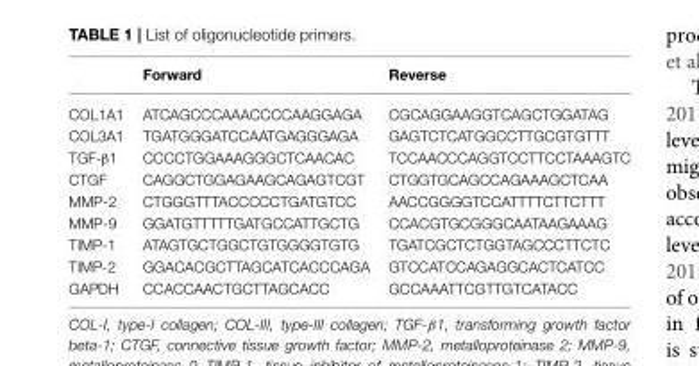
<table><thead><tr><td></td><td>Forward</td><td>Reverse</td></tr></thead><tbody><tr><td>COL1A1</td><td>ATCAGCCCAAACCCCAAGGAGA</td><td>CGCAGGAAGGTCAGCTGGATAG</td></tr><tr><td>COL3A1</td><td>TGATGGGATCCAATGAGGGAGA</td><td>GAGTCTCATGGCCTTGCGTGTTT</td></tr><tr><td>TGF-β1</td><td>CCCCTGGAAAGGGCTCAACAC</td><td>TCCAACCCAGGTCCTTCCTAAAGTC</td></tr><tr><td>CTGF</td><td>CAGGCTGGAGAAGCAGAGTCGT</td><td>CTGGTGCAGCCAGAAAGCTCAA</td></tr><tr><td>MMP-2</td><td>CTGGGTTTACCCCCTGATGTCC</td><td>AACCGGGGTCCATTTTCTTCTTT</td></tr><tr><td>MMP-9</td><td>GGATGTTTTTGATGCCATTGCTG</td><td>CCACGTGCGGGCAATAAGAAAG</td></tr><tr><td>TIMP-1</td><td>ATAGTGCTGGCTGTGGGGTGTG</td><td>TGATCGCTCTGGTAGCCCTTCTC</td></tr><tr><td>TIMP-2</td><td>GGACACGCTTAGCATCACCCAGA</td><td>GTCCATCCAGAGGCACTCATCC</td></tr><tr><td>GAPDH</td><td>CCACCAACTGCTTAGCACC</td><td>GCCAAATTCGTTGTCATACC</td></tr></tbody></table>